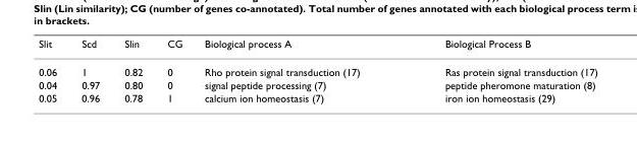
<table><thead><tr><td>Slit</td><td>Scd</td><td>Slin</td><td>CG</td><td>Biological process A</td><td>Biological Process B</td></tr></thead><tbody><tr><td>0.06</td><td>1</td><td>0.82</td><td>0</td><td>Rho protein signal transduction (17)</td><td>Ras protein signal transduction (17)</td></tr><tr><td>0.04</td><td>0.97</td><td>0.80</td><td>0</td><td>signal peptide processing (7)</td><td>peptide pheromone maturation (8)</td></tr><tr><td>0.05</td><td>0.96</td><td>0.78</td><td>1</td><td>calcium ion homeostasis (7)</td><td>iron ion homeostasis (29)</td></tr></tbody></table>